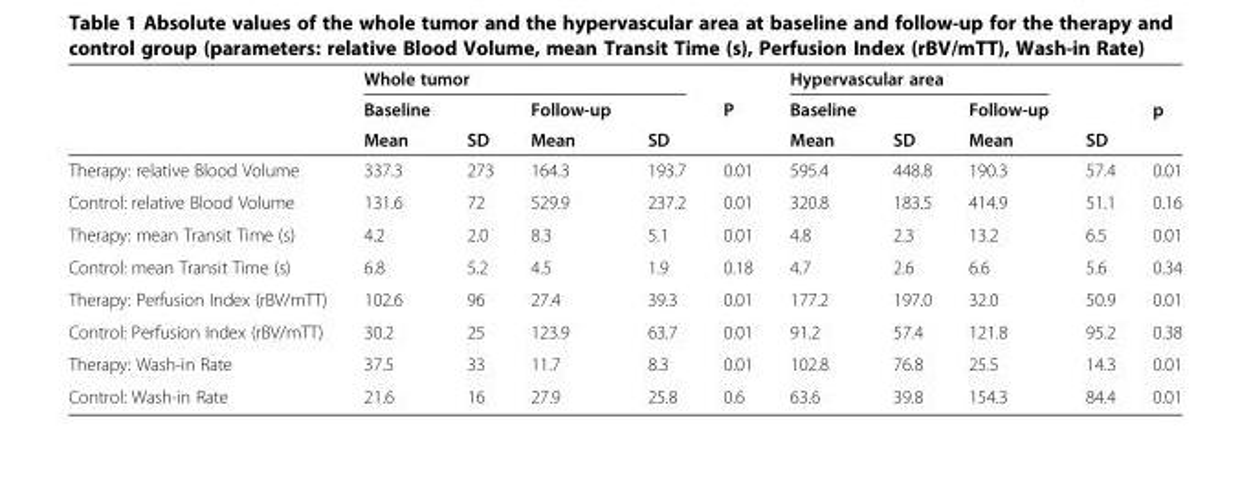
<table><thead><tr><td rowspan="3"></td><td colspan="4">Whole tumor</td><td rowspan="3">P</td><td colspan="3">Hypervascular area</td><td rowspan="3">SD</td><td rowspan="3">p</td></tr><tr><td rowspan="2">Baseline Mean</td><td rowspan="2">SD</td><td rowspan="2">Follow-up Mean</td><td rowspan="2">SD</td><td rowspan="2">Baseline Mean</td><td rowspan="2">SD</td><td rowspan="2">Follow-up Mean</td></tr><tr></tr></thead><tbody><tr><td>Therapy: relative Blood Volume</td><td>337.3</td><td>273</td><td>164.3</td><td>193.7</td><td>0.01</td><td>595.4</td><td>448.8</td><td>190.3</td><td>57.4</td><td>0.01</td></tr><tr><td>Control: relative Blood Volume</td><td>131.6</td><td>72</td><td>529.9</td><td>237.2</td><td>0.01</td><td>320.8</td><td>183.5</td><td>414.9</td><td>51.1</td><td>0.16</td></tr><tr><td>Therapy: mean Transit Time (s)</td><td>4.2</td><td>2.0</td><td>8.3</td><td>5.1</td><td>0.01</td><td>4.8</td><td>2.3</td><td>13.2</td><td>6.5</td><td>0.01</td></tr><tr><td>Control: mean Transit Time (s)</td><td>6.8</td><td>5.2</td><td>4.5</td><td>1.9</td><td>0.18</td><td>4.7</td><td>2.6</td><td>6.6</td><td>5.6</td><td>0.34</td></tr><tr><td>Therapy: Perfusion Index (rBV/mTT)</td><td>102.6</td><td>96</td><td>27.4</td><td>39.3</td><td>0.01</td><td>177.2</td><td>197.0</td><td>32.0</td><td>50.9</td><td>0.01</td></tr><tr><td>Control: Perfusion Index (rBV/mTT)</td><td>30.2</td><td>25</td><td>123.9</td><td>63.7</td><td>0.01</td><td>91.2</td><td>57.4</td><td>121.8</td><td>95.2</td><td>0.38</td></tr><tr><td>Therapy: Wash-in Rate</td><td>37.5</td><td>33</td><td>11.7</td><td>8.3</td><td>0.01</td><td>102.8</td><td>76.8</td><td>25.5</td><td>14.3</td><td>0.01</td></tr><tr><td>Control: Wash-in Rate</td><td>21.6</td><td>16</td><td>27.9</td><td>25.8</td><td>0.6</td><td>63.6</td><td>39.8</td><td>154.3</td><td>84.4</td><td>0.01</td></tr></tbody></table>